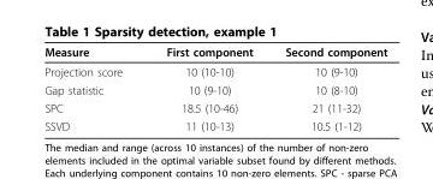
<table><thead><tr><td>Measure</td><td>First component</td><td>Second component</td></tr></thead><tbody><tr><td>Projection score</td><td>10 (10-10)</td><td>10 (9-10)</td></tr><tr><td>Gap statistic</td><td>10 (9-10)</td><td>10 (8-10)</td></tr><tr><td>SPC</td><td>18.5 (10-46)</td><td>21 (11-32)</td></tr><tr><td>SSVD</td><td>11 (10-13)</td><td>10.5 (1-12)</td></tr></tbody></table>